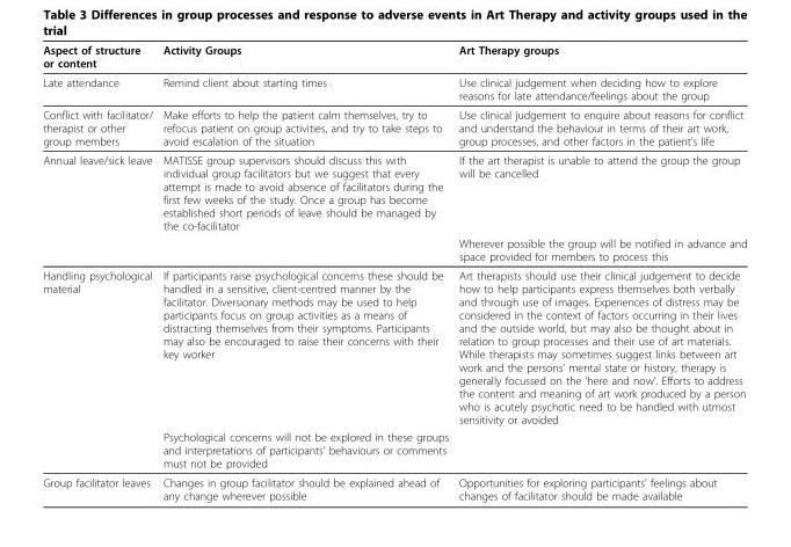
<table><thead><tr><td>Aspect of structure or content</td><td>Activity Groups</td><td>Art Therapy groups</td></tr></thead><tbody><tr><td>Late attendance</td><td>Remind client about starting times</td><td>Use clinical judgement when deciding how to explore reasons for late attendance/feelings about the group</td></tr><tr><td>Conflict with facilitator/ therapist or other group members</td><td>Make efforts to help the patient calm themselves, try to refocus patient on group activities, and try to take steps to avoid escalation of the situation</td><td>Use clinical judgement to enquire about reasons for conflict and understand the behaviour in terms of their art work, group processes, and other factors in the patient’s life</td></tr><tr><td rowspan="2">Annual leave/sick leave</td><td>MATISSE group supervisors should discuss this with individual group facilitators but we suggest that every attempt is made to avoid absence of facilitators during the first few weeks of the study. Once a group has become established short periods of leave should be managed by the co-facilitator</td><td>If the art therapist is unable to attend the group the group will be cancelled</td></tr><tr><td></td><td>Wherever possible the group will be notified in advance and space provided for members to process this</td></tr><tr><td rowspan="2">Handling psychological material</td><td>If participants raise psychological concerns these should be handled in a sensitive, client-centred manner by the facilitator. Diversionary methods may be used to help participants focus on group activities as a means of distracting themselves from their symptoms. Participants may also be encouraged to raise their concerns with their key worker</td><td>Art therapists should use their clinical judgement to decide how to help participants express themselves both verbally and through use of images. Experiences of distress may be considered in the context of factors occurring in their lives and the outside world, but may also be thought about in relation to group processes and their use of art materials. While therapists may sometimes suggest links between art work and the persons’ mental state or history, therapy is generally focussed on the ‘here and now’. Efforts to address the content and meaning of art work produced by a person who is acutely psychotic need to be handled with utmost sensitivity or avoided</td></tr><tr><td>Psychological concerns will not be explored in these groups and interpretations of participants’ behaviours or comments must not be provided</td><td></td></tr><tr><td>Group facilitator leaves</td><td>Changes in group facilitator should be explained ahead of any change wherever possible</td><td>Opportunities for exploring participants’ feelings about changes of facilitator should be made available</td></tr></tbody></table>